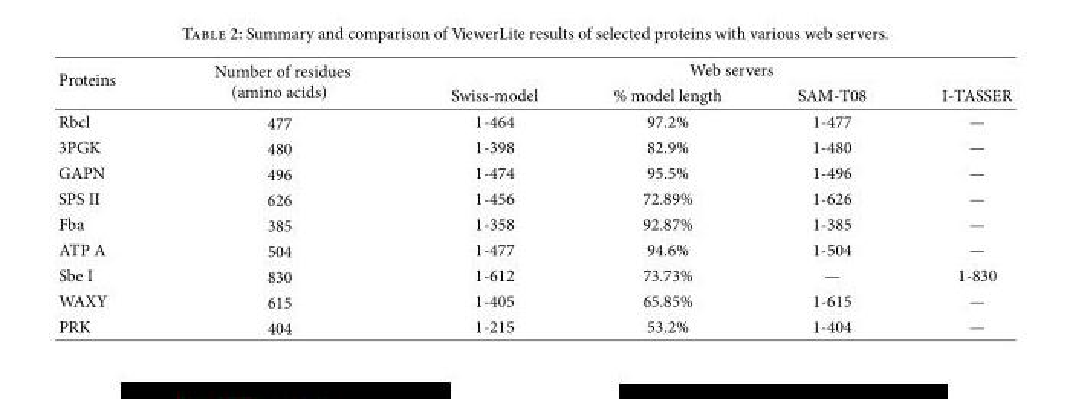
<table><thead><tr><td rowspan="2">Proteins</td><td rowspan="2">Number of residues (amino acids)</td><td colspan="4">Web servers</td></tr><tr><td>Swiss-model</td><td>% model length</td><td>SAM-T08</td><td>I-TASSER</td></tr></thead><tbody><tr><td>Rbcl</td><td>477</td><td>1-464</td><td>97.2%</td><td>1-477</td><td>—</td></tr><tr><td>3PGK</td><td>480</td><td>1-398</td><td>82.9%</td><td>1-480</td><td>—</td></tr><tr><td>GAPN</td><td>496</td><td>1-474</td><td>95.5%</td><td>1-496</td><td>—</td></tr><tr><td>SPS II</td><td>626</td><td>1-456</td><td>72.89%</td><td>1-626</td><td>—</td></tr><tr><td>Fba</td><td>385</td><td>1-358</td><td>92.87%</td><td>1-385</td><td>—</td></tr><tr><td>ATP A</td><td>504</td><td>1-477</td><td>94.6%</td><td>1-504</td><td>—</td></tr><tr><td>Sbe I</td><td>830</td><td>1-612</td><td>73.73%</td><td>—</td><td>1-830</td></tr><tr><td>WAXY</td><td>615</td><td>1-405</td><td>65.85%</td><td>1-615</td><td>—</td></tr><tr><td>PRK</td><td>404</td><td>1-215</td><td>53.2%</td><td>1-404</td><td>—</td></tr></tbody></table>